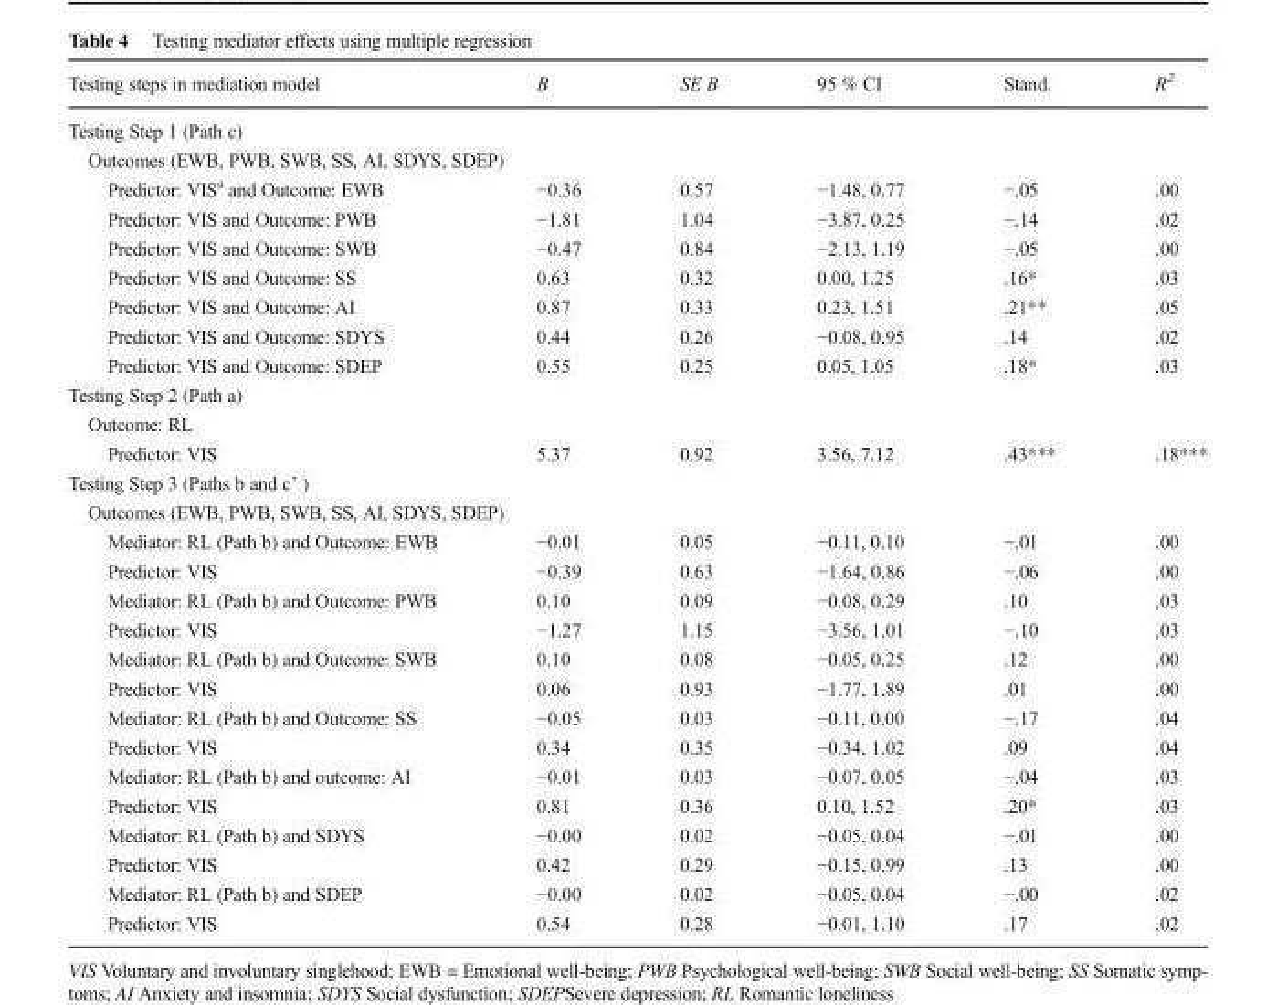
<table><thead><tr><td>Testing steps in mediation model</td><td>B</td><td>SE B</td><td>95 % CI</td><td>Stand.</td><td>R<sup>2</sup></td></tr></thead><tbody><tr><td colspan="6">Testing Step 1 (Path c)</td></tr><tr><td colspan="6">Outcomes (EWB, PWB, SWB, SS, AI, SDYS, SDEP)</td></tr><tr><td>Predictor: VIS<sup>a</sup> and Outcome: EWB</td><td>−0.36</td><td>0.57</td><td>−1.48, 0.77</td><td>−.05</td><td>.00</td></tr><tr><td>Predictor: VIS and Outcome: PWB</td><td>−1.81</td><td>1.04</td><td>−3.87, 0.25</td><td>−.14</td><td>.02</td></tr><tr><td>Predictor: VIS and Outcome: SWB</td><td>−0.47</td><td>0.84</td><td>−2.13, 1.19</td><td>−.05</td><td>.00</td></tr><tr><td>Predictor: VIS and Outcome: SS</td><td>0.63</td><td>0.32</td><td>0.00, 1.25</td><td>.16*</td><td>.03</td></tr><tr><td>Predictor: VIS and Outcome: AI</td><td>0.87</td><td>0.33</td><td>0.23, 1.51</td><td>.21**</td><td>.05</td></tr><tr><td>Predictor: VIS and Outcome: SDYS</td><td>0.44</td><td>0.26</td><td>−0.08, 0.95</td><td>.14</td><td>.02</td></tr><tr><td>Predictor: VIS and Outcome: SDEP</td><td>0.55</td><td>0.25</td><td>0.05, 1.05</td><td>.18*</td><td>.03</td></tr><tr><td colspan="6">Testing Step 2 (Path a)</td></tr><tr><td colspan="6">Outcome: RL</td></tr><tr><td>Predictor: VIS</td><td>5.37</td><td>0.92</td><td>3.56, 7.12</td><td>.43***</td><td>.18***</td></tr><tr><td colspan="6">Testing Step 3 (Paths b and c’ )</td></tr><tr><td colspan="6">Outcomes (EWB, PWB, SWB, SS, AI, SDYS, SDEP)</td></tr><tr><td>Mediator: RL (Path b) and Outcome: EWB</td><td>−0.01</td><td>0.05</td><td>−0.11, 0.10</td><td>−.01</td><td>.00</td></tr><tr><td>Predictor: VIS</td><td>−0.39</td><td>0.63</td><td>−1.64, 0.86</td><td>−.06</td><td>.00</td></tr><tr><td>Mediator: RL (Path b) and Outcome: PWB</td><td>0.10</td><td>0.09</td><td>−0.08, 0.29</td><td>.10</td><td>.03</td></tr><tr><td>Predictor: VIS</td><td>−1.27</td><td>1.15</td><td>−3.56, 1.01</td><td>−.10</td><td>.03</td></tr><tr><td>Mediator: RL (Path b) and Outcome: SWB</td><td>0.10</td><td>0.08</td><td>−0.05, 0.25</td><td>.12</td><td>.00</td></tr><tr><td>Predictor: VIS</td><td>0.06</td><td>0.93</td><td>−1.77, 1.89</td><td>.01</td><td>.00</td></tr><tr><td>Mediator: RL (Path b) and Outcome: SS</td><td>−0.05</td><td>0.03</td><td>−0.11, 0.00</td><td>−.17</td><td>.04</td></tr><tr><td>Predictor: VIS</td><td>0.34</td><td>0.35</td><td>−0.34, 1.02</td><td>.09</td><td>.04</td></tr><tr><td>Mediator: RL (Path b) and outcome: AI</td><td>−0.01</td><td>0.03</td><td>−0.07, 0.05</td><td>−.04</td><td>.03</td></tr><tr><td>Predictor: VIS</td><td>0.81</td><td>0.36</td><td>0.10, 1.52</td><td>.20*</td><td>.03</td></tr><tr><td>Mediator: RL (Path b) and SDYS</td><td>−0.00</td><td>0.02</td><td>−0.05, 0.04</td><td>−.01</td><td>.00</td></tr><tr><td>Predictor: VIS</td><td>0.42</td><td>0.29</td><td>−0.15, 0.99</td><td>.13</td><td>.00</td></tr><tr><td>Mediator: RL (Path b) and SDEP</td><td>−0.00</td><td>0.02</td><td>−0.05, 0.04</td><td>−.00</td><td>.02</td></tr><tr><td>Predictor: VIS</td><td>0.54</td><td>0.28</td><td>−0.01, 1.10</td><td>.17</td><td>.02</td></tr></tbody></table>